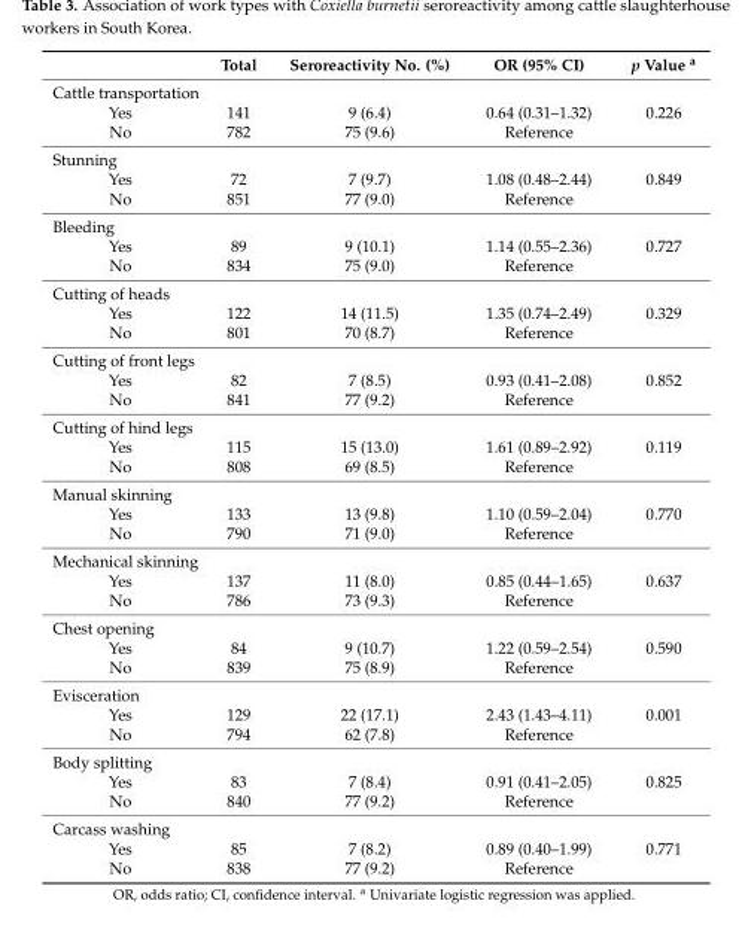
<table><thead><tr><td></td><td>Total</td><td>Seroreactivity No. (%)</td><td>OR (95% CI)</td><td>p Value <sup>a</sup></td></tr></thead><tbody><tr><td colspan="5">Cattle transportation</td></tr><tr><td>Yes</td><td>141</td><td>9 (6.4)</td><td>0.64 (0.31–1.32)</td><td>0.226</td></tr><tr><td>No</td><td>782</td><td>75 (9.6)</td><td>Reference</td><td></td></tr><tr><td colspan="5">Stunning</td></tr><tr><td>Yes</td><td>72</td><td>7 (9.7)</td><td>1.08 (0.48–2.44)</td><td>0.849</td></tr><tr><td>No</td><td>851</td><td>77 (9.0)</td><td>Reference</td><td></td></tr><tr><td colspan="5">Bleeding</td></tr><tr><td>Yes</td><td>89</td><td>9 (10.1)</td><td>1.14 (0.55–2.36)</td><td>0.727</td></tr><tr><td>No</td><td>834</td><td>75 (9.0)</td><td>Reference</td><td></td></tr><tr><td colspan="5">Cutting of heads</td></tr><tr><td>Yes</td><td>122</td><td>14 (11.5)</td><td>1.35 (0.74–2.49)</td><td>0.329</td></tr><tr><td>No</td><td>801</td><td>70 (8.7)</td><td>Reference</td><td></td></tr><tr><td colspan="5">Cutting of front legs</td></tr><tr><td>Yes</td><td>82</td><td>7 (8.5)</td><td>0.93 (0.41–2.08)</td><td>0.852</td></tr><tr><td>No</td><td>841</td><td>77 (9.2)</td><td>Reference</td><td></td></tr><tr><td colspan="5">Cutting of hind legs</td></tr><tr><td>Yes</td><td>115</td><td>15 (13.0)</td><td>1.61 (0.89–2.92)</td><td>0.119</td></tr><tr><td>No</td><td>808</td><td>69 (8.5)</td><td>Reference</td><td></td></tr><tr><td colspan="5">Manual skinning</td></tr><tr><td>Yes</td><td>133</td><td>13 (9.8)</td><td>1.10 (0.59–2.04)</td><td>0.770</td></tr><tr><td>No</td><td>790</td><td>71 (9.0)</td><td>Reference</td><td></td></tr><tr><td colspan="5">Mechanical skinning</td></tr><tr><td>Yes</td><td>137</td><td>11 (8.0)</td><td>0.85 (0.44–1.65)</td><td>0.637</td></tr><tr><td>No</td><td>786</td><td>73 (9.3)</td><td>Reference</td><td></td></tr><tr><td colspan="5">Chest opening</td></tr><tr><td>Yes</td><td>84</td><td>9 (10.7)</td><td>1.22 (0.59–2.54)</td><td>0.590</td></tr><tr><td>No</td><td>839</td><td>75 (8.9)</td><td>Reference</td><td></td></tr><tr><td colspan="5">Evisceration</td></tr><tr><td>Yes</td><td>129</td><td>22 (17.1)</td><td>2.43 (1.43–4.11)</td><td>0.001</td></tr><tr><td>No</td><td>794</td><td>62 (7.8)</td><td>Reference</td><td></td></tr><tr><td colspan="5">Body splitting</td></tr><tr><td>Yes</td><td>83</td><td>7 (8.4)</td><td>0.91 (0.41–2.05)</td><td>0.825</td></tr><tr><td>No</td><td>840</td><td>77 (9.2)</td><td>Reference</td><td></td></tr><tr><td colspan="5">Carcass washing</td></tr><tr><td>Yes</td><td>85</td><td>7 (8.2)</td><td>0.89 (0.40–1.99)</td><td>0.771</td></tr><tr><td>No</td><td>838</td><td>77 (9.2)</td><td>Reference</td><td></td></tr></tbody></table>